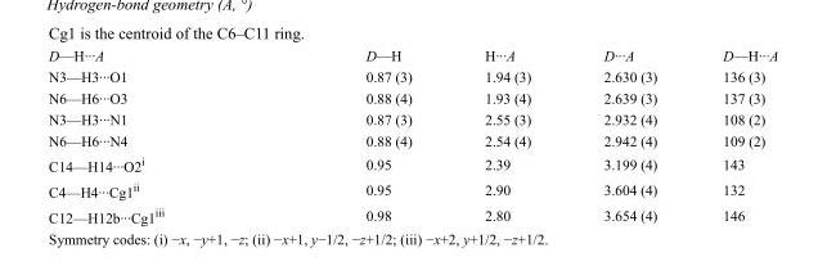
<table><tbody><tr><td>D—H···A</td><td>D—H</td><td>H···A</td><td>D···A</td><td>D—H···A</td></tr><tr><td>N3—H3···O1</td><td>0.87 (3)</td><td>1.94 (3)</td><td>2.630 (3)</td><td>136 (3)</td></tr><tr><td>N6—H6···O3</td><td>0.88 (4)</td><td>1.93 (4)</td><td>2.639 (3)</td><td>137 (3)</td></tr><tr><td>N3—H3···N1</td><td>0.87 (3)</td><td>2.55 (3)</td><td>2.932 (4)</td><td>108 (2)</td></tr><tr><td>N6—H6···N4</td><td>0.88 (4)</td><td>2.54 (4)</td><td>2.942 (4)</td><td>109 (2)</td></tr><tr><td>C14—H14···O2<sup>i</sup></td><td>0.95</td><td>2.39</td><td>3.199 (4)</td><td>143</td></tr><tr><td>C4—H4···Cg1<sup>ii</sup></td><td>0.95</td><td>2.90</td><td>3.604 (4)</td><td>132</td></tr><tr><td>C12—H12b···Cg1<sup>iii</sup></td><td>0.98</td><td>2.80</td><td>3.654 (4)</td><td>146</td></tr></tbody></table>